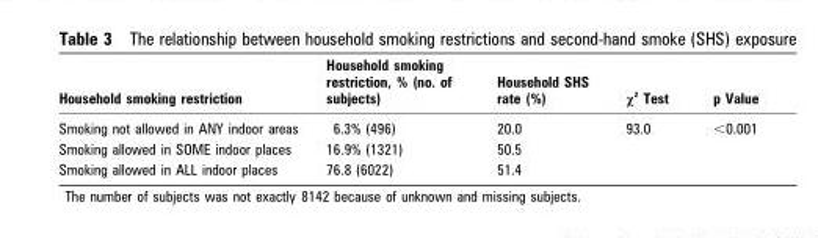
<table><thead><tr><td>Household smoking restriction</td><td>Household smoking restriction, % (no. of subjects)</td><td>Household SHS rate (%)</td><td>χ <sup>2</sup> Test</td><td>p Value</td></tr></thead><tbody><tr><td>Smoking not allowed in ANY indoor areas</td><td>6.3% (496)</td><td>20.0</td><td rowspan="3">93.0</td><td rowspan="3">&lt;0.001</td></tr><tr><td>Smoking allowed in SOME indoor places</td><td>16.9% (1321)</td><td>50.5</td></tr><tr><td>Smoking allowed in ALL indoor places</td><td>76.8 (6022)</td><td>51.4</td></tr></tbody></table>